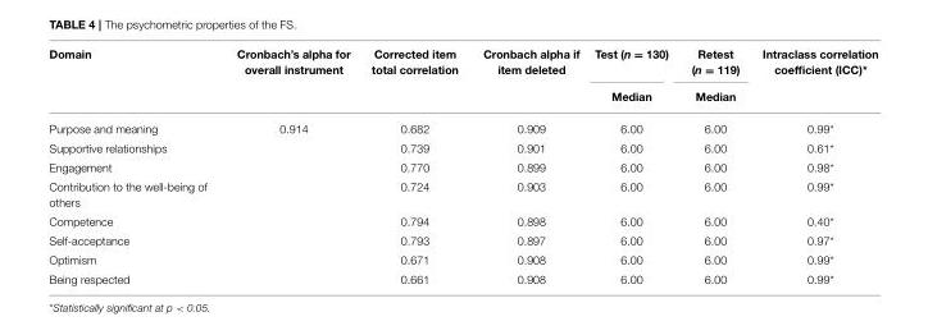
<table><thead><tr><td rowspan="2">Domain</td><td rowspan="2">Cronbach’s alpha for overall instrument</td><td rowspan="2">Corrected item total correlation</td><td rowspan="2">Cronbach alpha if item deleted</td><td rowspan="2">Test (n = 130) Median</td><td rowspan="2">Retest (n = 119) Median</td><td rowspan="2">Intraclass correlation coefficient (ICC)*</td></tr><tr></tr></thead><tbody><tr><td>Purpose and meaning</td><td>0.914</td><td>0.682</td><td>0.909</td><td>6.00</td><td>6.00</td><td>0.99*</td></tr><tr><td>Supportive relationships</td><td></td><td>0.739</td><td>0.901</td><td>6.00</td><td>6.00</td><td>0.61*</td></tr><tr><td>Engagement</td><td></td><td>0.770</td><td>0.899</td><td>6.00</td><td>6.00</td><td>0.98*</td></tr><tr><td>Contribution to the well-being of others</td><td></td><td>0.724</td><td>0.903</td><td>6.00</td><td>6.00</td><td>0.99*</td></tr><tr><td>Competence</td><td></td><td>0.794</td><td>0.898</td><td>6.00</td><td>6.00</td><td>0.40*</td></tr><tr><td>Self-acceptance</td><td></td><td>0.793</td><td>0.897</td><td>6.00</td><td>6.00</td><td>0.97*</td></tr><tr><td>Optimism</td><td></td><td>0.671</td><td>0.908</td><td>6.00</td><td>6.00</td><td>0.99*</td></tr><tr><td>Being respected</td><td></td><td>0.661</td><td>0.908</td><td>6.00</td><td>6.00</td><td>0.99*</td></tr></tbody></table>